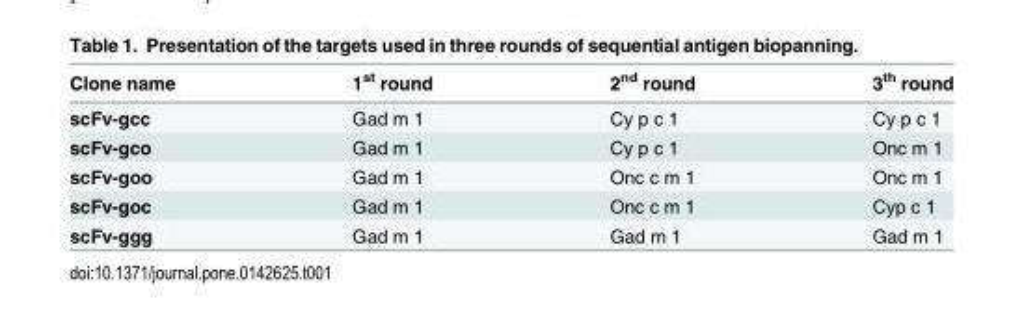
<table><thead><tr><td>Clone name</td><td>1<sup>st</sup> round</td><td>2<sup>nd</sup> round</td><td>3<sup>th</sup> round</td></tr></thead><tbody><tr><td>scFv-gcc</td><td>Gad m 1</td><td>Cy p c 1</td><td>Cy p c 1</td></tr><tr><td>scFv-gco</td><td>Gad m 1</td><td>Cy p c 1</td><td>Onc m 1</td></tr><tr><td>scFv-goo</td><td>Gad m 1</td><td>Onc c m 1</td><td>Onc m 1</td></tr><tr><td>scFv-goc</td><td>Gad m 1</td><td>Onc c m 1</td><td>Cyp c 1</td></tr><tr><td>scFv-ggg</td><td>Gad m 1</td><td>Gad m 1</td><td>Gad m 1</td></tr></tbody></table>